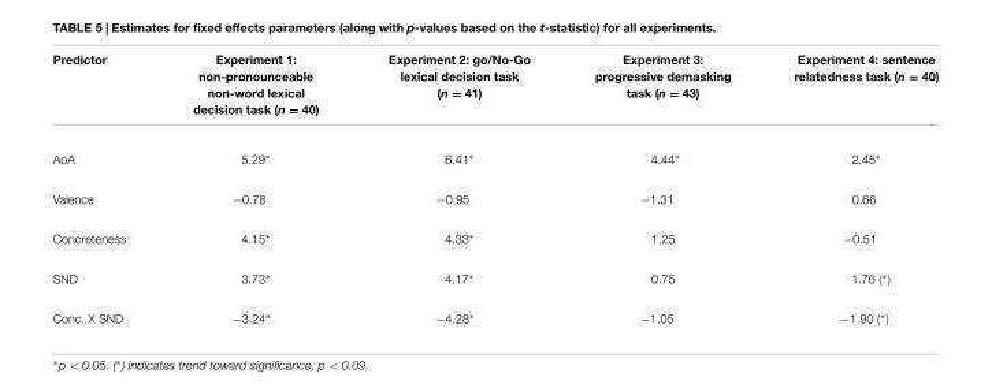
<table><thead><tr><td>Predictor</td><td>Experiment 1: non-pronounceable non-word lexical decision task (n = 40)</td><td>Experiment 2: go/No-Go lexical decision task (n = 41)</td><td>Experiment 3: progressive demasking task (n = 43)</td><td>Experiment 4: sentence relatedness task (n = 40)</td></tr></thead><tbody><tr><td>AoA</td><td>5.29∗</td><td>6.41∗</td><td>4.44∗</td><td>2.45∗</td></tr><tr><td>Valence</td><td>−0.78</td><td>−0.95</td><td>−1.31</td><td>0.66</td></tr><tr><td>Concreteness</td><td>4.15∗</td><td>4.33∗</td><td>1.25</td><td>−0.51</td></tr><tr><td>SND</td><td>3.73∗</td><td>4.17∗</td><td>0.75</td><td>1.76 (∗)</td></tr><tr><td>Conc. X SND</td><td>−3.24∗</td><td>−4.28∗</td><td>−1.05</td><td>−1.90 (∗)</td></tr></tbody></table>